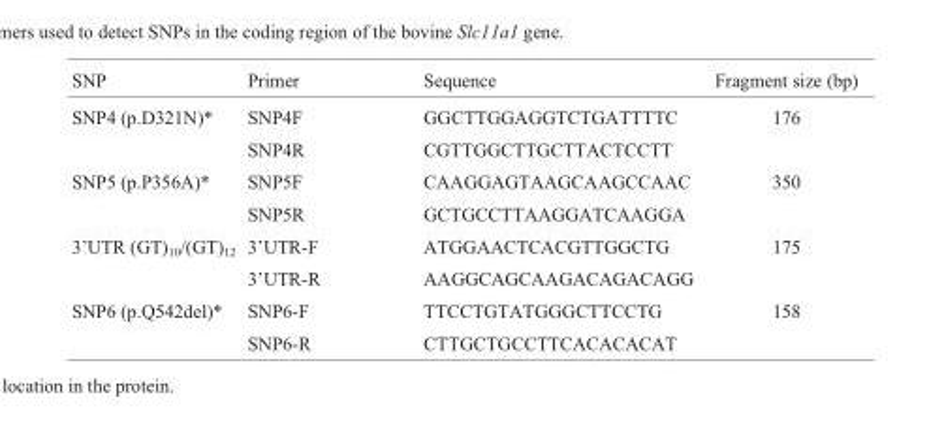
<table><thead><tr><td>SNP</td><td>Primer</td><td>Sequence</td><td>Fragment size (bp)</td></tr></thead><tbody><tr><td rowspan="2">SNP4 (p.D321N)*</td><td>SNP4F</td><td>GGCTTGGAGGTCTGATTTTC</td><td>176</td></tr><tr><td>SNP4R</td><td>CGTTGGCTTGCTTACTCCTT</td><td></td></tr><tr><td rowspan="2">SNP5 (p.P356A)*</td><td>SNP5F</td><td>CAAGGAGTAAGCAAGCCAAC</td><td>350</td></tr><tr><td>SNP5R</td><td>GCTGCCTTAAGGATCAAGGA</td><td></td></tr><tr><td rowspan="2">3’UTR (GT)<sub>10</sub>/(GT)<sub>12</sub></td><td>3’UTR-F</td><td>ATGGAACTCACGTTGGCTG</td><td>175</td></tr><tr><td>3’UTR-R</td><td>AAGGCAGCAAGACAGACAGG</td><td></td></tr><tr><td rowspan="2">SNP6 (p.Q542del)*</td><td>SNP6-F</td><td>TTCCTGTATGGGCTTCCTG</td><td>158</td></tr><tr><td>SNP6-R</td><td>CTTGCTGCCTTCACACACAT</td><td></td></tr></tbody></table>